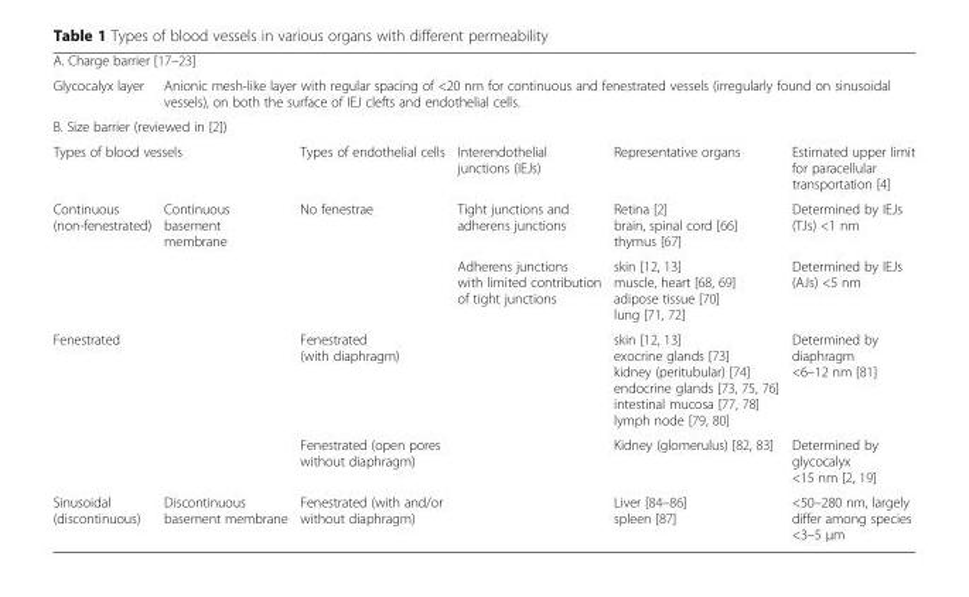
<table><tbody><tr><td colspan="6">A. Charge barrier [17–23]</td></tr><tr><td>Glycocalyx layer</td><td colspan="5">Anionic mesh-like layer with regular spacing of &lt;20 nm for continuous and fenestrated vessels (irregularly found on sinusoidal vessels), on both the surface of IEJ clefts and endothelial cells.</td></tr><tr><td colspan="6">B. Size barrier (reviewed in [2])</td></tr><tr><td colspan="2">Types of blood vessels</td><td>Types of endothelial cells</td><td>Interendothelial junctions (IEJs)</td><td>Representative organs</td><td>Estimated upper limit for paracellular transportation [4]</td></tr><tr><td rowspan="2">Continuous (non-fenestrated)</td><td rowspan="4">Continuous basement membrane</td><td rowspan="2">No fenestrae</td><td>Tight junctions and adherens junctions</td><td>Retina [2] brain, spinal cord [66] thymus [67]</td><td>Determined by IEJs (TJs) &lt;1 nm</td></tr><tr><td rowspan="4">Adherens junctions with limited contribution of tight junctions</td><td>skin [12, 13] muscle, heart [68, 69] adipose tissue [70] lung [71, 72]</td><td>Determined by IEJs (AJs) &lt;5 nm</td></tr><tr><td rowspan="2">Fenestrated</td><td>Fenestrated (with diaphragm)</td><td>skin [12, 13] exocrine glands [73] kidney (peritubular) [74] endocrine glands [73, 75, 76] intestinal mucosa [77, 78] lymph node [79, 80]</td><td>Determined by diaphragm &lt;6–12 nm [81]</td></tr><tr><td>Fenestrated (open pores without diaphragm)</td><td>Kidney (glomerulus) [82, 83]</td><td>Determined by glycocalyx &lt;15 nm [2, 19]</td></tr><tr><td>Sinusoidal (discontinuous)</td><td>Discontinuous basement membrane</td><td>Fenestrated (with and/or without diaphragm)</td><td>Liver [84–86] spleen [87]</td><td>&lt;50–280 nm, largely differ among species &lt;3–5 μm</td></tr></tbody></table>